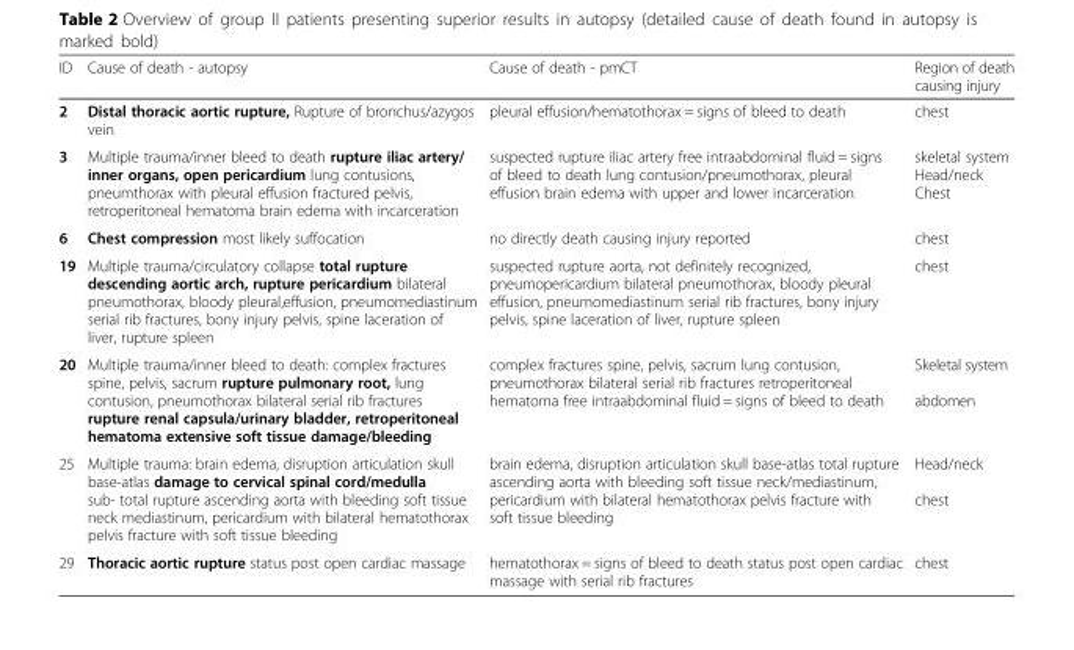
<table><thead><tr><td>ID</td><td>Cause of death - autopsy</td><td>Cause of death - pmCT</td><td>Region of death causing injury</td></tr></thead><tbody><tr><td>2</td><td>Distal thoracic aortic rupture, Rupture of bronchus/azygos vein</td><td>pleural effusion/hematothorax = signs of bleed to death</td><td>chest</td></tr><tr><td>3</td><td>Multiple trauma/inner bleed to death rupture iliac artery/ inner organs, open pericardium lung contusions, pneumthorax with pleural effusion fractured pelvis, retroperitoneal hematoma brain edema with incarceration</td><td>suspected rupture iliac artery free intraabdominal fluid = signs of bleed to death lung contusion/pneumothorax, pleural effusion brain edema with upper and lower incarceration</td><td>skeletal system Head/neck Chest</td></tr><tr><td>6</td><td>Chest compression most likely suffocation</td><td>no directly death causing injury reported</td><td>chest</td></tr><tr><td>19</td><td>Multiple trauma/circulatory collapse total rupture descending aortic arch, rupture pericardium bilateral pneumothorax, bloody pleural,effusion, pneumomediastinum serial rib fractures, bony injury pelvis, spine laceration of liver, rupture spleen</td><td>suspected rupture aorta, not definitely recognized, pneumopericardium bilateral pneumothorax, bloody pleural effusion, pneumomediastinum serial rib fractures, bony injury pelvis, spine laceration of liver, rupture spleen</td><td>chest</td></tr><tr><td>20</td><td>Multiple trauma/inner bleed to death: complex fractures spine, pelvis, sacrum rupture pulmonary root, lung contusion, pneumothorax bilateral serial rib fractures rupture renal capsula/urinary bladder, retroperitoneal hematoma extensive soft tissue damage/bleeding</td><td>complex fractures spine, pelvis, sacrum lung contusion, pneumothorax bilateral serial rib fractures retroperitoneal hematoma free intraabdominal fluid = signs of bleed to death</td><td>Skeletal system abdomen</td></tr><tr><td>25</td><td>Multiple trauma: brain edema, disruption articulation skull base-atlas damage to cervical spinal cord/medulla sub- total rupture ascending aorta with bleeding soft tissue neck mediastinum, pericardium with bilateral hematothorax pelvis fracture with soft tissue bleeding</td><td>brain edema, disruption articulation skull base-atlas total rupture ascending aorta with bleeding soft tissue neck/mediastinum, pericardium with bilateral hematothorax pelvis fracture with soft tissue bleeding</td><td>Head/neck chest</td></tr><tr><td>29</td><td>Thoracic aortic rupture status post open cardiac massage</td><td>hematothorax = signs of bleed to death status post open cardiac massage with serial rib fractures</td><td>chest</td></tr></tbody></table>